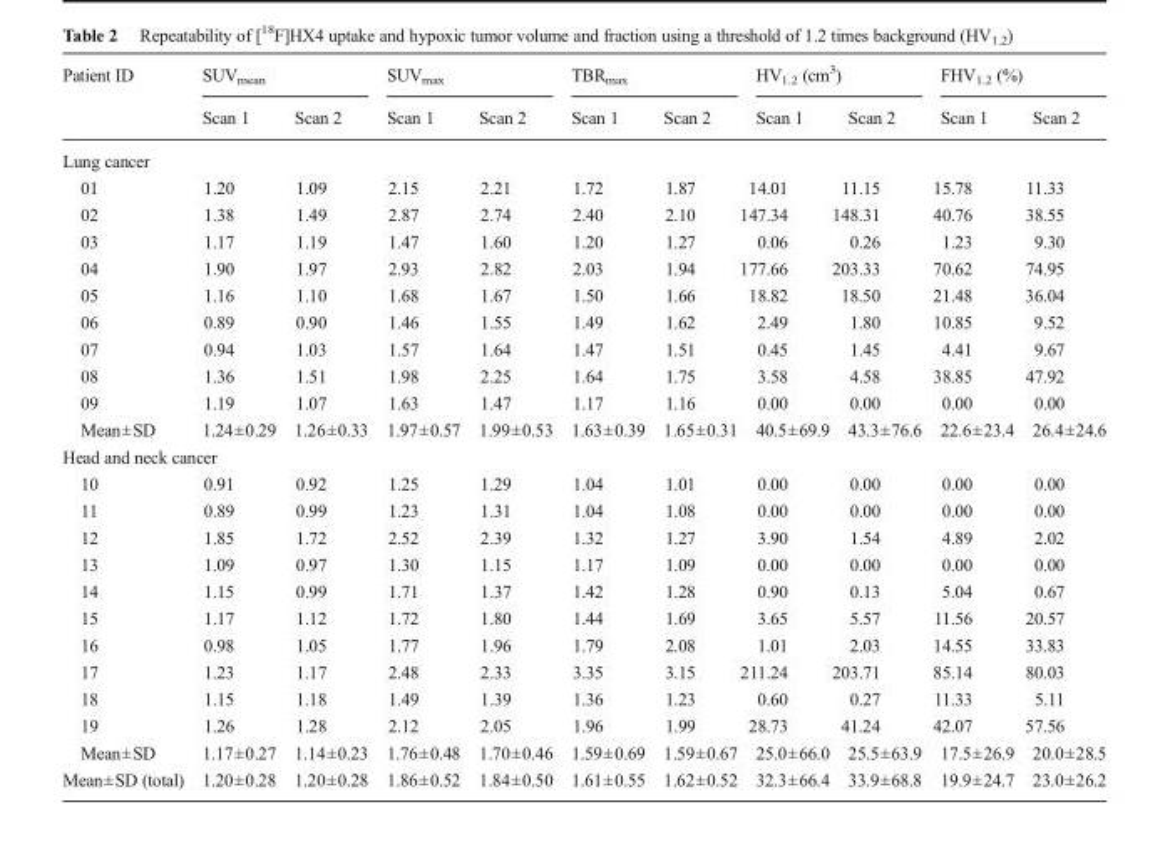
<table><thead><tr><td rowspan="2">Patient ID</td><td colspan="2">SUV<sub>mean</sub></td><td colspan="2">SUV<sub>max</sub></td><td colspan="2">TBR<sub>max</sub></td><td colspan="2">HV<sub>1.2</sub> (cm<sup>3</sup>)</td><td colspan="2">FHV<sub>1.2</sub> (%)</td></tr><tr><td>Scan 1</td><td>Scan 2</td><td>Scan 1</td><td>Scan 2</td><td>Scan 1</td><td>Scan 2</td><td>Scan 1</td><td>Scan 2</td><td>Scan 1</td><td>Scan 2</td></tr></thead><tbody><tr><td colspan="11">Lung cancer</td></tr><tr><td>01</td><td>1.20</td><td>1.09</td><td>2.15</td><td>2.21</td><td>1.72</td><td>1.87</td><td>14.01</td><td>11.15</td><td>15.78</td><td>11.33</td></tr><tr><td>02</td><td>1.38</td><td>1.49</td><td>2.87</td><td>2.74</td><td>2.40</td><td>2.10</td><td>147.34</td><td>148.31</td><td>40.76</td><td>38.55</td></tr><tr><td>03</td><td>1.17</td><td>1.19</td><td>1.47</td><td>1.60</td><td>1.20</td><td>1.27</td><td>0.06</td><td>0.26</td><td>1.23</td><td>9.30</td></tr><tr><td>04</td><td>1.90</td><td>1.97</td><td>2.93</td><td>2.82</td><td>2.03</td><td>1.94</td><td>177.66</td><td>203.33</td><td>70.62</td><td>74.95</td></tr><tr><td>05</td><td>1.16</td><td>1.10</td><td>1.68</td><td>1.67</td><td>1.50</td><td>1.66</td><td>18.82</td><td>18.50</td><td>21.48</td><td>36.04</td></tr><tr><td>06</td><td>0.89</td><td>0.90</td><td>1.46</td><td>1.55</td><td>1.49</td><td>1.62</td><td>2.49</td><td>1.80</td><td>10.85</td><td>9.52</td></tr><tr><td>07</td><td>0.94</td><td>1.03</td><td>1.57</td><td>1.64</td><td>1.47</td><td>1.51</td><td>0.45</td><td>1.45</td><td>4.41</td><td>9.67</td></tr><tr><td>08</td><td>1.36</td><td>1.51</td><td>1.98</td><td>2.25</td><td>1.64</td><td>1.75</td><td>3.58</td><td>4.58</td><td>38.85</td><td>47.92</td></tr><tr><td>09</td><td>1.19</td><td>1.07</td><td>1.63</td><td>1.47</td><td>1.17</td><td>1.16</td><td>0.00</td><td>0.00</td><td>0.00</td><td>0.00</td></tr><tr><td>Mean±SD</td><td>1.24±0.29</td><td>1.26±0.33</td><td>1.97±0.57</td><td>1.99±0.53</td><td>1.63±0.39</td><td>1.65±0.31</td><td>40.5±69.9</td><td>43.3±76.6</td><td>22.6±23.4</td><td>26.4±24.6</td></tr><tr><td colspan="11">Head and neck cancer</td></tr><tr><td>10</td><td>0.91</td><td>0.92</td><td>1.25</td><td>1.29</td><td>1.04</td><td>1.01</td><td>0.00</td><td>0.00</td><td>0.00</td><td>0.00</td></tr><tr><td>11</td><td>0.89</td><td>0.99</td><td>1.23</td><td>1.31</td><td>1.04</td><td>1.08</td><td>0.00</td><td>0.00</td><td>0.00</td><td>0.00</td></tr><tr><td>12</td><td>1.85</td><td>1.72</td><td>2.52</td><td>2.39</td><td>1.32</td><td>1.27</td><td>3.90</td><td>1.54</td><td>4.89</td><td>2.02</td></tr><tr><td>13</td><td>1.09</td><td>0.97</td><td>1.30</td><td>1.15</td><td>1.17</td><td>1.09</td><td>0.00</td><td>0.00</td><td>0.00</td><td>0.00</td></tr><tr><td>14</td><td>1.15</td><td>0.99</td><td>1.71</td><td>1.37</td><td>1.42</td><td>1.28</td><td>0.90</td><td>0.13</td><td>5.04</td><td>0.67</td></tr><tr><td>15</td><td>1.17</td><td>1.12</td><td>1.72</td><td>1.80</td><td>1.44</td><td>1.69</td><td>3.65</td><td>5.57</td><td>11.56</td><td>20.57</td></tr><tr><td>16</td><td>0.98</td><td>1.05</td><td>1.77</td><td>1.96</td><td>1.79</td><td>2.08</td><td>1.01</td><td>2.03</td><td>14.55</td><td>33.83</td></tr><tr><td>17</td><td>1.23</td><td>1.17</td><td>2.48</td><td>2.33</td><td>3.35</td><td>3.15</td><td>211.24</td><td>203.71</td><td>85.14</td><td>80.03</td></tr><tr><td>18</td><td>1.15</td><td>1.18</td><td>1.49</td><td>1.39</td><td>1.36</td><td>1.23</td><td>0.60</td><td>0.27</td><td>11.33</td><td>5.11</td></tr><tr><td>19</td><td>1.26</td><td>1.28</td><td>2.12</td><td>2.05</td><td>1.96</td><td>1.99</td><td>28.73</td><td>41.24</td><td>42.07</td><td>57.56</td></tr><tr><td>Mean±SD</td><td>1.17±0.27</td><td>1.14±0.23</td><td>1.76±0.48</td><td>1.70±0.46</td><td>1.59±0.69</td><td>1.59±0.67</td><td>25.0±66.0</td><td>25.5±63.9</td><td>17.5±26.9</td><td>20.0±28.5</td></tr><tr><td>Mean±SD (total)</td><td>1.20±0.28</td><td>1.20±0.28</td><td>1.86±0.52</td><td>1.84±0.50</td><td>1.61±0.55</td><td>1.62±0.52</td><td>32.3±66.4</td><td>33.9±68.8</td><td>19.9±24.7</td><td>23.0±26.2</td></tr></tbody></table>